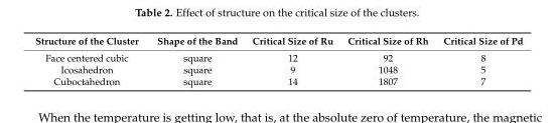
<table><thead><tr><td>Structure of the Cluster</td><td>Shape of the Band</td><td>Critical Size of Ru</td><td>Critical Size of Rh</td><td>Critical Size of Pd</td></tr></thead><tbody><tr><td>Face centered cubic</td><td>square</td><td>12</td><td>92</td><td>8</td></tr><tr><td>Icosahedron</td><td>square</td><td>9</td><td>1048</td><td>5</td></tr><tr><td>Cuboctahedron</td><td>square</td><td>14</td><td>1807</td><td>7</td></tr></tbody></table>